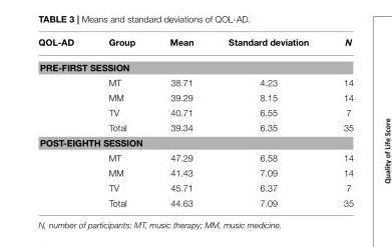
<table><thead><tr><td>QOL-AD</td><td>Group</td><td>Mean</td><td>Standard deviation</td><td>N</td></tr></thead><tbody><tr><td colspan="5">PRE-FIRST SESSION</td></tr><tr><td></td><td>MT</td><td>38.71</td><td>4.23</td><td>14</td></tr><tr><td></td><td>MM</td><td>39.29</td><td>8.15</td><td>14</td></tr><tr><td></td><td>TV</td><td>40.71</td><td>6.55</td><td>7</td></tr><tr><td></td><td>Total</td><td>39.34</td><td>6.35</td><td>35</td></tr><tr><td colspan="5">POST-EIGHTH SESSION</td></tr><tr><td></td><td>MT</td><td>47.29</td><td>6.58</td><td>14</td></tr><tr><td></td><td>MM</td><td>41.43</td><td>7.09</td><td>14</td></tr><tr><td></td><td>TV</td><td>45.71</td><td>6.37</td><td>7</td></tr><tr><td></td><td>Total</td><td>44.63</td><td>7.09</td><td>35</td></tr></tbody></table>